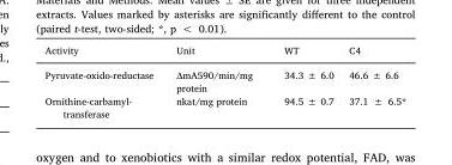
<table><thead><tr><td>Activity</td><td>Unit</td><td>WT</td><td>C4</td></tr></thead><tbody><tr><td>Pyruvate-oxido-reductase</td><td>ΔmA590/min/mg protein</td><td>34.3 ± 6.0</td><td>46.6 ± 6.6</td></tr><tr><td>Ornithine-carbamyl- transferase</td><td>nkat/mg protein</td><td>94.5 ± 0.7</td><td>37.1 ± 6.5*</td></tr></tbody></table>